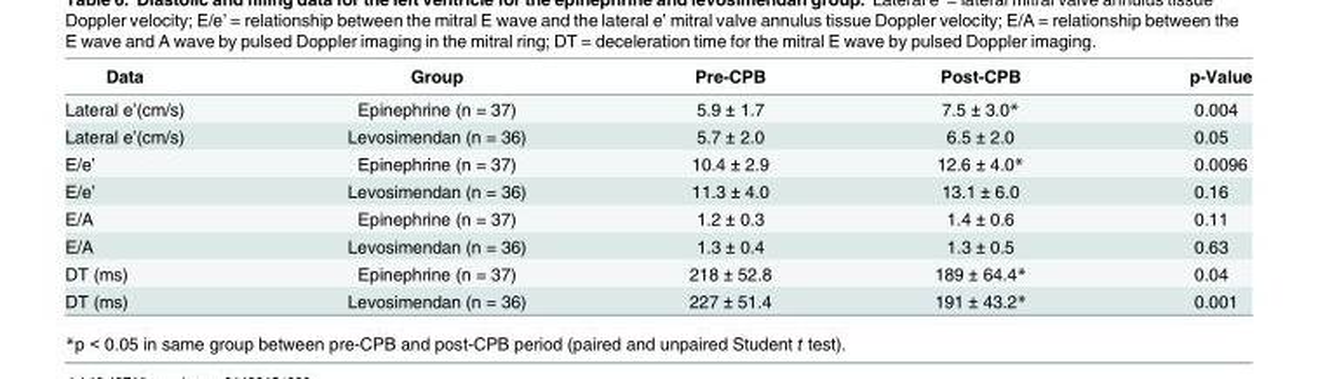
<table><thead><tr><td>Data</td><td>Group</td><td>Pre-CPB</td><td>Post-CPB</td><td>p-Value</td></tr></thead><tbody><tr><td>Lateral e’(cm/s)</td><td>Epinephrine (n = 37)</td><td>5.9 ± 1.7</td><td>7.5 ± 3.0*</td><td>0.004</td></tr><tr><td>Lateral e’(cm/s)</td><td>Levosimendan (n = 36)</td><td>5.7 ± 2.0</td><td>6.5 ± 2.0</td><td>0.05</td></tr><tr><td>E/e’</td><td>Epinephrine (n = 37)</td><td>10.4 ± 2.9</td><td>12.6 ± 4.0*</td><td>0.0096</td></tr><tr><td>E/e’</td><td>Levosimendan (n = 36)</td><td>11.3 ± 4.0</td><td>13.1 ± 6.0</td><td>0.16</td></tr><tr><td>E/A</td><td>Epinephrine (n = 37)</td><td>1.2 ± 0.3</td><td>1.4 ± 0.6</td><td>0.11</td></tr><tr><td>E/A</td><td>Levosimendan (n = 36)</td><td>1.3 ± 0.4</td><td>1.3 ± 0.5</td><td>0.63</td></tr><tr><td>DT (ms)</td><td>Epinephrine (n = 37)</td><td>218 ± 52.8</td><td>189 ± 64.4*</td><td>0.04</td></tr><tr><td>DT (ms)</td><td>Levosimendan (n = 36)</td><td>227 ± 51.4</td><td>191 ± 43.2*</td><td>0.001</td></tr></tbody></table>